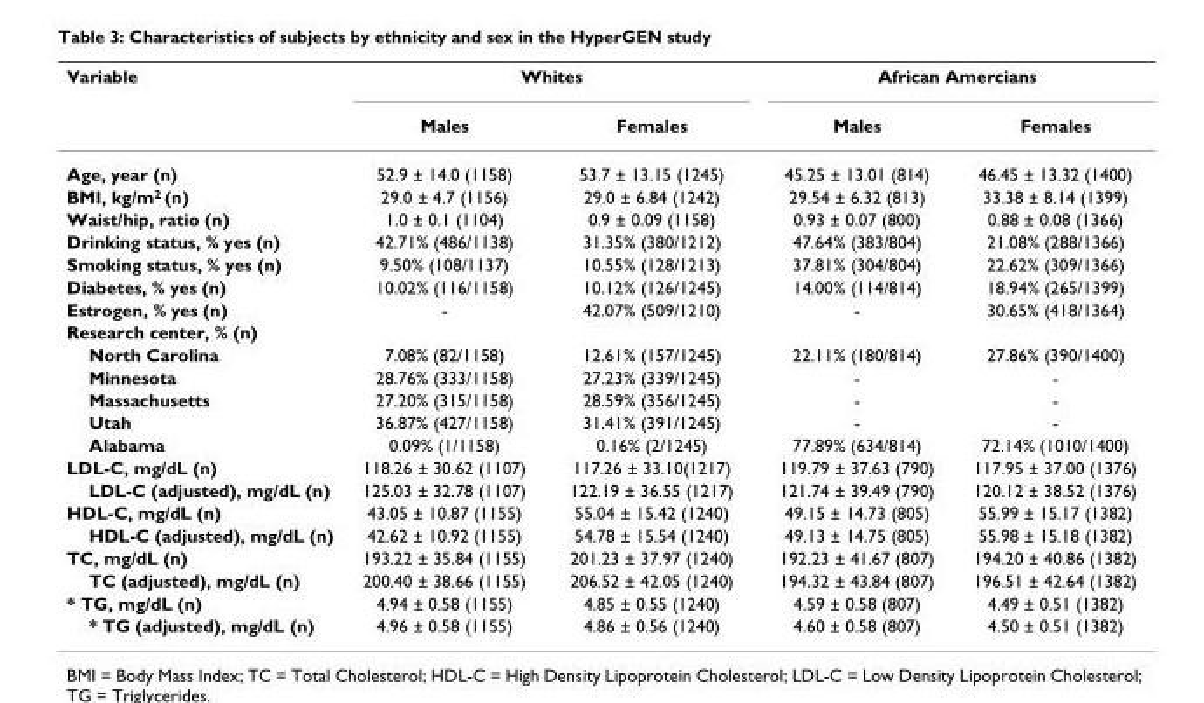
<table><thead><tr><td rowspan="2">Variable</td><td colspan="2">Whites</td><td colspan="2">African Amercians</td></tr><tr><td>Males</td><td>Females</td><td>Males</td><td>Females</td></tr></thead><tbody><tr><td>Age, year (n)</td><td>52.9 ± 14.0 (1158)</td><td>53.7 ± 13.15 (1245)</td><td>45.25 ± 13.01 (814)</td><td>46.45 ± 13.32 (1400)</td></tr><tr><td>BMI, kg/m2 (n)</td><td>29.0 ± 4.7 (1156)</td><td>29.0 ± 6.84 (1242)</td><td>29.54 ± 6.32 (813)</td><td>33.38 ± 8.14 (1399)</td></tr><tr><td>Waist/hip, ratio (n)</td><td>1.0 ± 0.1 (1104)</td><td>0.9 ± 0.09 (1158)</td><td>0.93 ± 0.07 (800)</td><td>0.88 ± 0.08 (1366)</td></tr><tr><td>Drinking status, % yes (n)</td><td>42.71% (486/1138)</td><td>31.35% (380/1212)</td><td>47.64% (383/804)</td><td>21.08% (288/1366)</td></tr><tr><td>Smoking status, % yes (n)</td><td>9.50% (108/1137)</td><td>10.55% (128/1213)</td><td>37.81% (304/804)</td><td>22.62% (309/1366)</td></tr><tr><td>Diabetes, % yes (n)</td><td>10.02% (116/1158)</td><td>10.12% (126/1245)</td><td>14.00% (114/814)</td><td>18.94% (265/1399)</td></tr><tr><td>Estrogen, % yes (n)</td><td>-</td><td>42.07% (509/1210)</td><td>-</td><td>30.65% (418/1364)</td></tr><tr><td colspan="5">Research center, % (n)</td></tr><tr><td>North Carolina</td><td>7.08% (82/1158)</td><td>12.61% (157/1245)</td><td>22.11% (180/814)</td><td>27.86% (390/1400)</td></tr><tr><td>Minnesota</td><td>28.76% (333/1158)</td><td>27.23% (339/1245)</td><td>-</td><td>-</td></tr><tr><td>Massachusetts</td><td>27.20% (315/1158)</td><td>28.59% (356/1245)</td><td>-</td><td>-</td></tr><tr><td>Utah</td><td>36.87% (427/1158)</td><td>31.41% (391/1245)</td><td>-</td><td>-</td></tr><tr><td>Alabama</td><td>0.09% (1/1158)</td><td>0.16% (2/1245)</td><td>77.89% (634/814)</td><td>72.14% (1010/1400)</td></tr><tr><td>LDL-C, mg/dL (n)</td><td>118.26 ± 30.62 (1107)</td><td>117.26 ± 33.10(1217)</td><td>119.79 ± 37.63 (790)</td><td>117.95 ± 37.00 (1376)</td></tr><tr><td>LDL-C (adjusted), mg/dL (n)</td><td>125.03 ± 32.78 (1107)</td><td>122.19 ± 36.55 (1217)</td><td>121.74 ± 39.49 (790)</td><td>120.12 ± 38.52 (1376)</td></tr><tr><td>HDL-C, mg/dL (n)</td><td>43.05 ± 10.87 (1155)</td><td>55.04 ± 15.42 (1240)</td><td>49.15 ± 14.73 (805)</td><td>55.99 ± 15.17 (1382)</td></tr><tr><td>HDL-C (adjusted), mg/dL (n)</td><td>42.62 ± 10.92 (1155)</td><td>54.78 ± 15.54 (1240)</td><td>49.13 ± 14.75 (805)</td><td>55.98 ± 15.18 (1382)</td></tr><tr><td>TC, mg/dL (n)</td><td>193.22 ± 35.84 (1155)</td><td>201.23 ± 37.97 (1240)</td><td>192.23 ± 41.67 (807)</td><td>194.20 ± 40.86 (1382)</td></tr><tr><td>TC (adjusted), mg/dL (n)</td><td>200.40 ± 38.66 (1155)</td><td>206.52 ± 42.05 (1240)</td><td>194.32 ± 43.84 (807)</td><td>196.51 ± 42.64 (1382)</td></tr><tr><td>* TG, mg/dL (n)</td><td>4.94 ± 0.58 (1155)</td><td>4.85 ± 0.55 (1240)</td><td>4.59 ± 0.58 (807)</td><td>4.49 ± 0.51 (1382)</td></tr><tr><td>* TG (adjusted), mg/dL (n)</td><td>4.96 ± 0.58 (1155)</td><td>4.86 ± 0.56 (1240)</td><td>4.60 ± 0.58 (807)</td><td>4.50 ± 0.51 (1382)</td></tr></tbody></table>